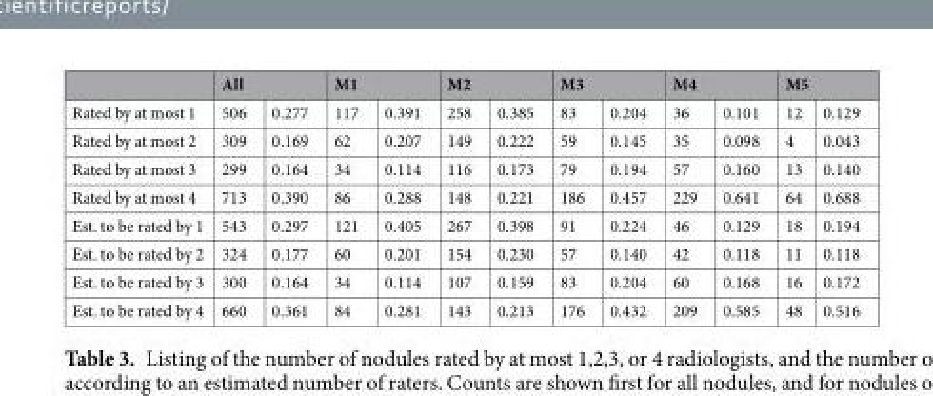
<table><thead><tr><td rowspan="2">Rated by at most 1</td><td colspan="2">All</td><td colspan="2">M1</td><td colspan="2">M2</td><td colspan="2">M3</td><td colspan="2">M4</td><td colspan="2">M5</td></tr><tr><td>506</td><td>0.277</td><td>117</td><td>0.391</td><td>258</td><td>0.385</td><td>83</td><td>0.204</td><td>36</td><td>0.101</td><td>12</td><td>0.129</td></tr></thead><tbody><tr><td>Rated by at most 2</td><td>309</td><td>0.169</td><td>62</td><td>0.207</td><td>149</td><td>0.222</td><td>59</td><td>0.145</td><td>35</td><td>0.098</td><td>4</td><td>0.043</td></tr><tr><td>Rated by at most 3</td><td>299</td><td>0.164</td><td>34</td><td>0.114</td><td>116</td><td>0.173</td><td>79</td><td>0.194</td><td>57</td><td>0.160</td><td>13</td><td>0.140</td></tr><tr><td>Rated by at most 4</td><td>713</td><td>0.390</td><td>86</td><td>0.288</td><td>148</td><td>0.221</td><td>186</td><td>0.457</td><td>229</td><td>0.641</td><td>64</td><td>0.688</td></tr><tr><td>Est. to be rated by 1</td><td>543</td><td>0.297</td><td>121</td><td>0.405</td><td>267</td><td>0.398</td><td>91</td><td>0.224</td><td>46</td><td>0.129</td><td>18</td><td>0.194</td></tr><tr><td>Est. to be rated by 2</td><td>324</td><td>0.177</td><td>60</td><td>0.201</td><td>154</td><td>0.230</td><td>57</td><td>0.140</td><td>42</td><td>0.118</td><td>11</td><td>0.118</td></tr><tr><td>Est. to be rated by 3</td><td>300</td><td>0.164</td><td>34</td><td>0.114</td><td>107</td><td>0.159</td><td>83</td><td>0.204</td><td>60</td><td>0.168</td><td>16</td><td>0.172</td></tr><tr><td>Est. to be rated by 4</td><td>660</td><td>0.361</td><td>84</td><td>0.281</td><td>143</td><td>0.213</td><td>176</td><td>0.432</td><td>209</td><td>0.585</td><td>48</td><td>0.516</td></tr></tbody></table>